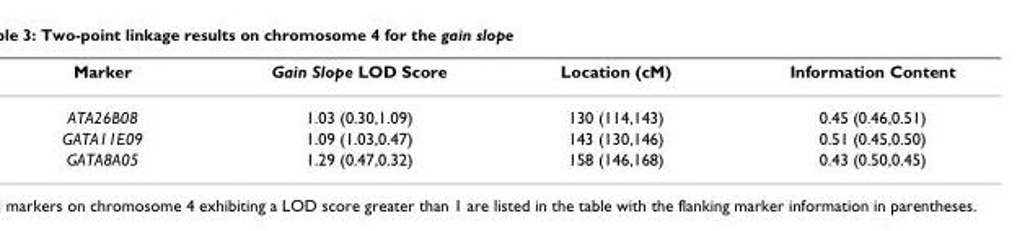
<table><thead><tr><td>Marker</td><td>Gain Slope LOD Score</td><td>Location (cM)</td><td>Information Content</td></tr></thead><tbody><tr><td>ATA26B08</td><td>1.03 (0.30,1.09)</td><td>130 (114,143)</td><td>0.45 (0.46,0.51)</td></tr><tr><td>GATA11E09</td><td>1.09 (1.03,0.47)</td><td>143 (130,146)</td><td>0.51 (0.45,0.50)</td></tr><tr><td>GATA8A05</td><td>1.29 (0.47,0.32)</td><td>158 (146,168)</td><td>0.43 (0.50,0.45)</td></tr></tbody></table>